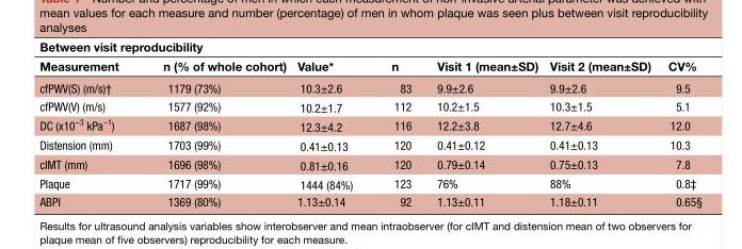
<table><thead><tr><td colspan="7">Between visit reproducibility</td></tr><tr><td>Measurement</td><td>n (% of whole cohort)</td><td>Value*</td><td>n</td><td>Visit 1 (mean±SD)</td><td>Visit 2 (mean±SD)</td><td>CV%</td></tr></thead><tbody><tr><td>cfPWV(S) (m/s)†</td><td>1179 (73%)</td><td>10.3±2.6</td><td>83</td><td>9.9±2.6</td><td>9.9±2.6</td><td>9.5</td></tr><tr><td>cfPWV(V) (m/s)</td><td>1577 (92%)</td><td>10.2±1.7</td><td>112</td><td>10.2±1.5</td><td>10.3±1.5</td><td>5.1</td></tr><tr><td>DC (x10<sup>−3</sup> kPa<sup>−1</sup>)</td><td>1687 (98%)</td><td>12.3±4.2</td><td>116</td><td>12.2±3.8</td><td>12.7±4.6</td><td>12.0</td></tr><tr><td>Distension (mm)</td><td>1703 (99%)</td><td>0.41±0.13</td><td>120</td><td>0.41±0.12</td><td>0.41±0.13</td><td>10.3</td></tr><tr><td>cIMT (mm)</td><td>1696 (98%)</td><td>0.81±0.16</td><td>120</td><td>0.79±0.14</td><td>0.75±0.13</td><td>7.8</td></tr><tr><td>Plaque</td><td>1717 (99%)</td><td>1444 (84%)</td><td>123</td><td>76%</td><td>88%</td><td>0.8‡</td></tr><tr><td>ABPI</td><td>1369 (80%)</td><td>1.13±0.14</td><td>92</td><td>1.13±0.11</td><td>1.18±0.11</td><td>0.65§</td></tr></tbody></table>